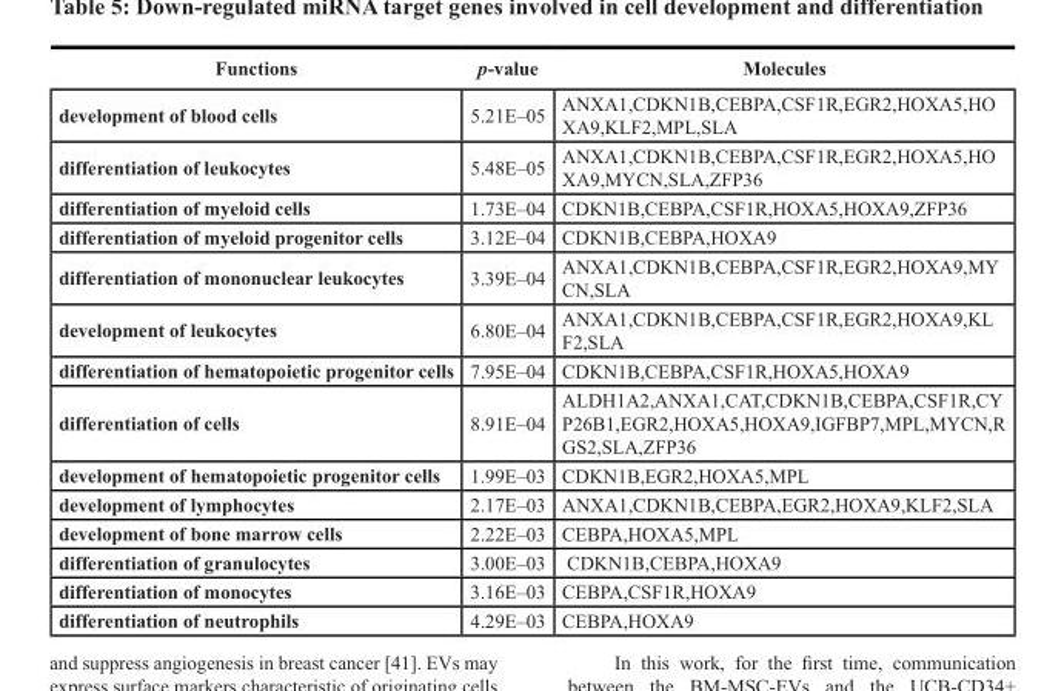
<table><thead><tr><td>Functions</td><td>p-value</td><td>Molecules</td></tr></thead><tbody><tr><td>development of blood cells</td><td>5.21E–05</td><td>ANXA1,CDKN1B,CEBPA,CSF1R,EGR2,HOXA5,HO XA9,KLF2,MPL,SLA</td></tr><tr><td>differentiation of leukocytes</td><td>5.48E–05</td><td>ANXA1,CDKN1B,CEBPA,CSF1R,EGR2,HOXA5,HO XA9,MYCN,SLA,ZFP36</td></tr><tr><td>differentiation of myeloid cells</td><td>1.73E–04</td><td>CDKN1B,CEBPA,CSF1R,HOXA5,HOXA9,ZFP36</td></tr><tr><td>differentiation of myeloid progenitor cells</td><td>3.12E–04</td><td>CDKN1B,CEBPA,HOXA9</td></tr><tr><td>differentiation of mononuclear leukocytes</td><td>3.39E–04</td><td>ANXA1,CDKN1B,CEBPA,CSF1R,EGR2,HOXA9,MY CN,SLA</td></tr><tr><td>development of leukocytes</td><td>6.80E–04</td><td>ANXA1,CDKN1B,CEBPA,CSF1R,EGR2,HOXA9,KL F2,SLA</td></tr><tr><td>differentiation of hematopoietic progenitor cells</td><td>7.95E–04</td><td>CDKN1B,CEBPA,CSF1R,HOXA5,HOXA9</td></tr><tr><td>differentiation of cells</td><td>8.91E–04</td><td>ALDH1A2,ANXA1,CAT,CDKN1B,CEBPA,CSF1R,CY P26B1,EGR2,HOXA5,HOXA9,IGFBP7,MPL,MYCN,R GS2,SLA,ZFP36</td></tr><tr><td>development of hematopoietic progenitor cells</td><td>1.99E–03</td><td>CDKN1B,EGR2,HOXA5,MPL</td></tr><tr><td>development of lymphocytes</td><td>2.17E–03</td><td>ANXA1,CDKN1B,CEBPA,EGR2,HOXA9,KLF2,SLA</td></tr><tr><td>development of bone marrow cells</td><td>2.22E–03</td><td>CEBPA,HOXA5,MPL</td></tr><tr><td>differentiation of granulocytes</td><td>3.00E–03</td><td>CDKN1B,CEBPA,HOXA9</td></tr><tr><td>differentiation of monocytes</td><td>3.16E–03</td><td>CEBPA,CSF1R,HOXA9</td></tr><tr><td>differentiation of neutrophils</td><td>4.29E–03</td><td>CEBPA,HOXA9</td></tr></tbody></table>